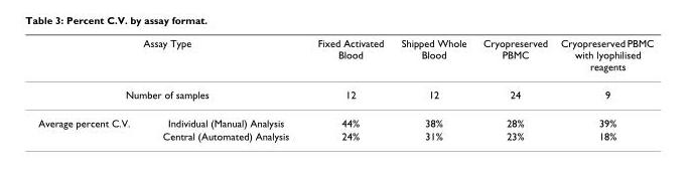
<table><thead><tr><td rowspan="2" colspan="2">Assay Type Number of samples</td><td rowspan="3">Fixed Activated Blood 12 44%</td><td rowspan="3">Shipped Whole Blood 12 38%</td><td rowspan="3">Cryopreserved PBMC 24 28%</td><td rowspan="3">Cryopreserved PBMC with lyophilised reagents 9 39%</td></tr><tr></tr><tr><td>Average percent C.V.</td><td>Individual (Manual) Analysis</td></tr></thead><tbody><tr><td></td><td>Central (Automated) Analysis</td><td>24%</td><td>31%</td><td>23%</td><td>18%</td></tr></tbody></table>